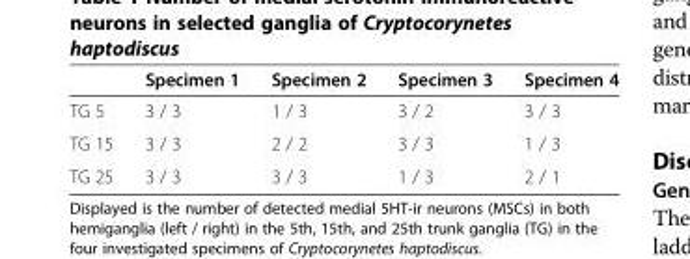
<table><thead><tr><td></td><td>Specimen 1</td><td>Specimen 2</td><td>Specimen 3</td><td>Specimen 4</td></tr></thead><tbody><tr><td>TG 5</td><td>3 / 3</td><td>1 / 3</td><td>3 / 2</td><td>3 / 3</td></tr><tr><td>TG 15</td><td>3 / 3</td><td>2 / 2</td><td>3 / 3</td><td>1 / 3</td></tr><tr><td>TG 25</td><td>3 / 3</td><td>3 / 3</td><td>1 / 3</td><td>2 / 1</td></tr></tbody></table>